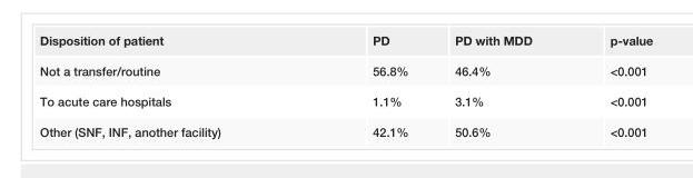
<table><tbody><tr><td>Disposition of patient</td><td>PD</td><td>PD with MDD</td><td>p-value</td></tr><tr><td>Not a transfer/routine</td><td>56.8%</td><td>46.4%</td><td>&lt;0.001</td></tr><tr><td>To acute care hospitals</td><td>1.1%</td><td>3.1%</td><td>&lt;0.001</td></tr><tr><td>Other (SNF, INF, another facility)</td><td>42.1%</td><td>50.6%</td><td>&lt;0.001</td></tr></tbody></table>